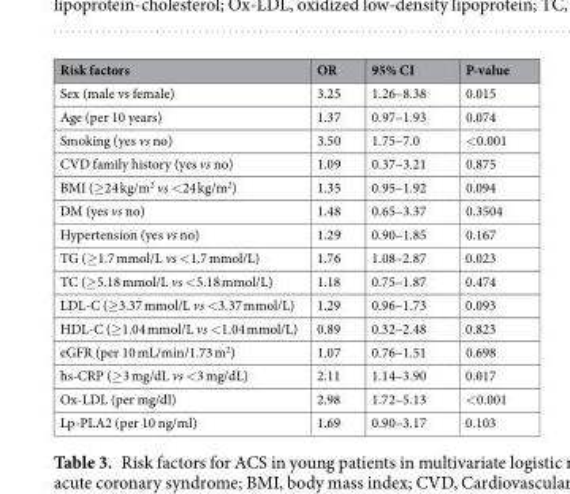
<table><thead><tr><td>Risk factors</td><td>OR</td><td>95% CI</td><td>P-value</td></tr></thead><tbody><tr><td>Sex (male vs female)</td><td>3.25</td><td>1.26–8.38</td><td>0.015</td></tr><tr><td>Age (per 10 years)</td><td>1.37</td><td>0.97–1.93</td><td>0.074</td></tr><tr><td>Smoking (yes vs no)</td><td>3.50</td><td>1.75–7.0</td><td>&lt;0.001</td></tr><tr><td>CVD family history (yes vs no)</td><td>1.09</td><td>0.37–3.21</td><td>0.875</td></tr><tr><td>BMI (≥24 kg/m<sup>2</sup> vs &lt;24 kg/m<sup>2</sup>)</td><td>1.35</td><td>0.95–1.92</td><td>0.094</td></tr><tr><td>DM (yes vs no)</td><td>1.48</td><td>0.65–3.37</td><td>0.3504</td></tr><tr><td>Hypertension (yes vs no)</td><td>1.29</td><td>0.90–1.85</td><td>0.167</td></tr><tr><td>TG (≥1.7 mmol/L vs &lt;1.7 mmol/L)</td><td>1.76</td><td>1.08–2.87</td><td>0.023</td></tr><tr><td>TC (≥5.18 mmol/L vs &lt;5.18 mmol/L)</td><td>1.18</td><td>0.75–1.87</td><td>0.474</td></tr><tr><td>LDL-C (≥3.37 mmol/L vs &lt;3.37 mmol/L)</td><td>1.29</td><td>0.96–1.73</td><td>0.093</td></tr><tr><td>HDL-C (≥1.04 mmol/L vs &lt;1.04 mmol/L)</td><td>0.89</td><td>0.32–2.48</td><td>0.823</td></tr><tr><td>eGFR (per 10 mL/min/1.73 m<sup>2</sup>)</td><td>1.07</td><td>0.76–1.51</td><td>0.698</td></tr><tr><td>hs-CRP (≥3 mg/dL vs &lt;3 mg/dL)</td><td>2.11</td><td>1.14–3.90</td><td>0.017</td></tr><tr><td>Ox-LDL (per mg/dl)</td><td>2.98</td><td>1.72–5.13</td><td>&lt;0.001</td></tr><tr><td>Lp-PLA2 (per 10 ng/ml)</td><td>1.69</td><td>0.90–3.17</td><td>0.103</td></tr></tbody></table>